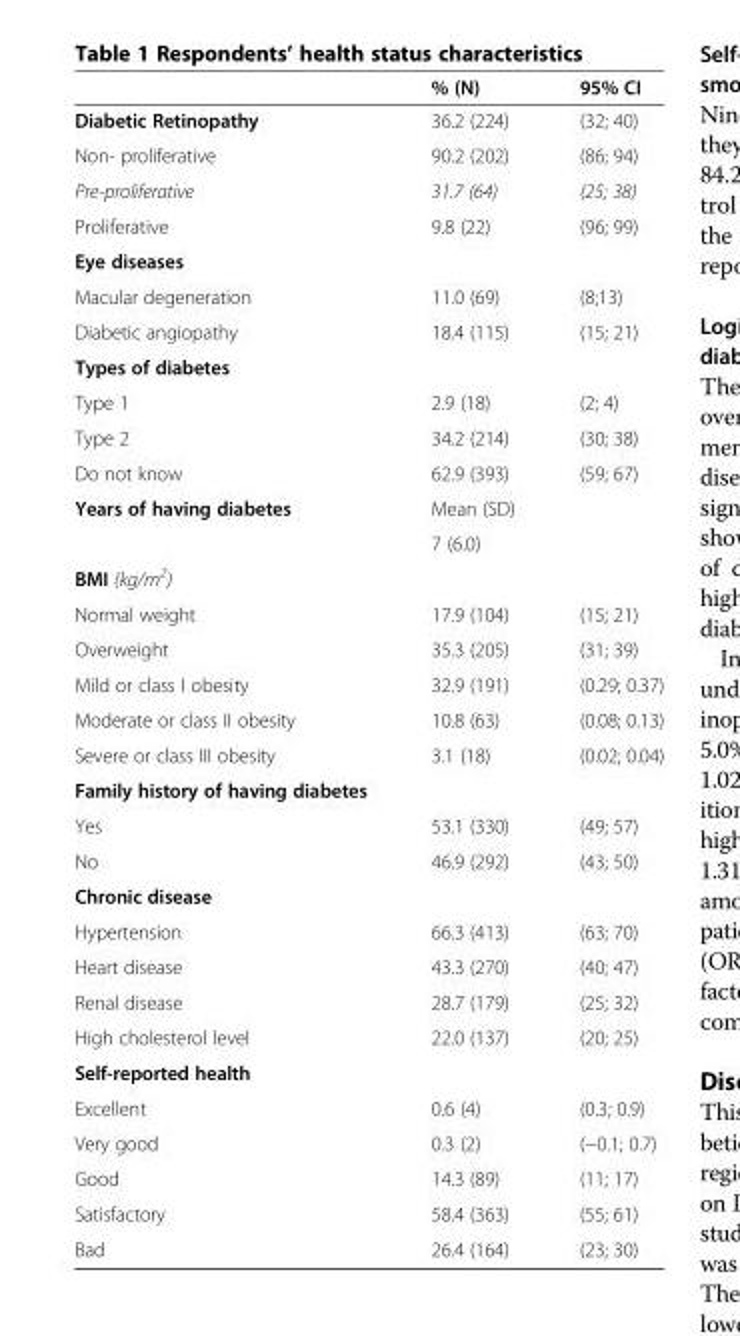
<table><thead><tr><td></td><td>% (N)</td><td>95% CI</td></tr></thead><tbody><tr><td>Diabetic Retinopathy</td><td>36.2 (224)</td><td>(32; 40)</td></tr><tr><td>Non- proliferative</td><td>90.2 (202)</td><td>(86; 94)</td></tr><tr><td>Pre-proliferative</td><td>31.7 (64)</td><td>(25; 38)</td></tr><tr><td>Proliferative</td><td>9.8 (22)</td><td>(96; 99)</td></tr><tr><td colspan="3">Eye diseases</td></tr><tr><td>Macular degeneration</td><td>11.0 (69)</td><td>(8;13)</td></tr><tr><td>Diabetic angiopathy</td><td>18.4 (115)</td><td>(15; 21)</td></tr><tr><td colspan="3">Types of diabetes</td></tr><tr><td>Type 1</td><td>2.9 (18)</td><td>(2; 4)</td></tr><tr><td>Type 2</td><td>34.2 (214)</td><td>(30; 38)</td></tr><tr><td>Do not know</td><td>62.9 (393)</td><td>(59; 67)</td></tr><tr><td rowspan="2">Years of having diabetes</td><td>Mean (SD)</td><td></td></tr><tr><td>7 (6.0)</td><td></td></tr><tr><td colspan="3">BMI (kg/m<sup>2</sup>)</td></tr><tr><td>Normal weight</td><td>17.9 (104)</td><td>(15; 21)</td></tr><tr><td>Overweight</td><td>35.3 (205)</td><td>(31; 39)</td></tr><tr><td>Mild or class I obesity</td><td>32.9 (191)</td><td>(0.29; 0.37)</td></tr><tr><td>Moderate or class II obesity</td><td>10.8 (63)</td><td>(0.08; 0.13)</td></tr><tr><td>Severe or class III obesity</td><td>3.1 (18)</td><td>(0.02; 0.04)</td></tr><tr><td colspan="3">Family history of having diabetes</td></tr><tr><td>Yes</td><td>53.1 (330)</td><td>(49; 57)</td></tr><tr><td>No</td><td>46.9 (292)</td><td>(43; 50)</td></tr><tr><td colspan="3">Chronic disease</td></tr><tr><td>Hypertension</td><td>66.3 (413)</td><td>(63; 70)</td></tr><tr><td>Heart disease</td><td>43.3 (270)</td><td>(40; 47)</td></tr><tr><td>Renal disease</td><td>28.7 (179)</td><td>(25; 32)</td></tr><tr><td>High cholesterol level</td><td>22.0 (137)</td><td>(20; 25)</td></tr><tr><td colspan="3">Self-reported health</td></tr><tr><td>Excellent</td><td>0.6 (4)</td><td>(0.3; 0.9)</td></tr><tr><td>Very good</td><td>0.3 (2)</td><td>(−0.1; 0.7)</td></tr><tr><td>Good</td><td>14.3 (89)</td><td>(11; 17)</td></tr><tr><td>Satisfactory</td><td>58.4 (363)</td><td>(55; 61)</td></tr><tr><td>Bad</td><td>26.4 (164)</td><td>(23; 30)</td></tr></tbody></table>